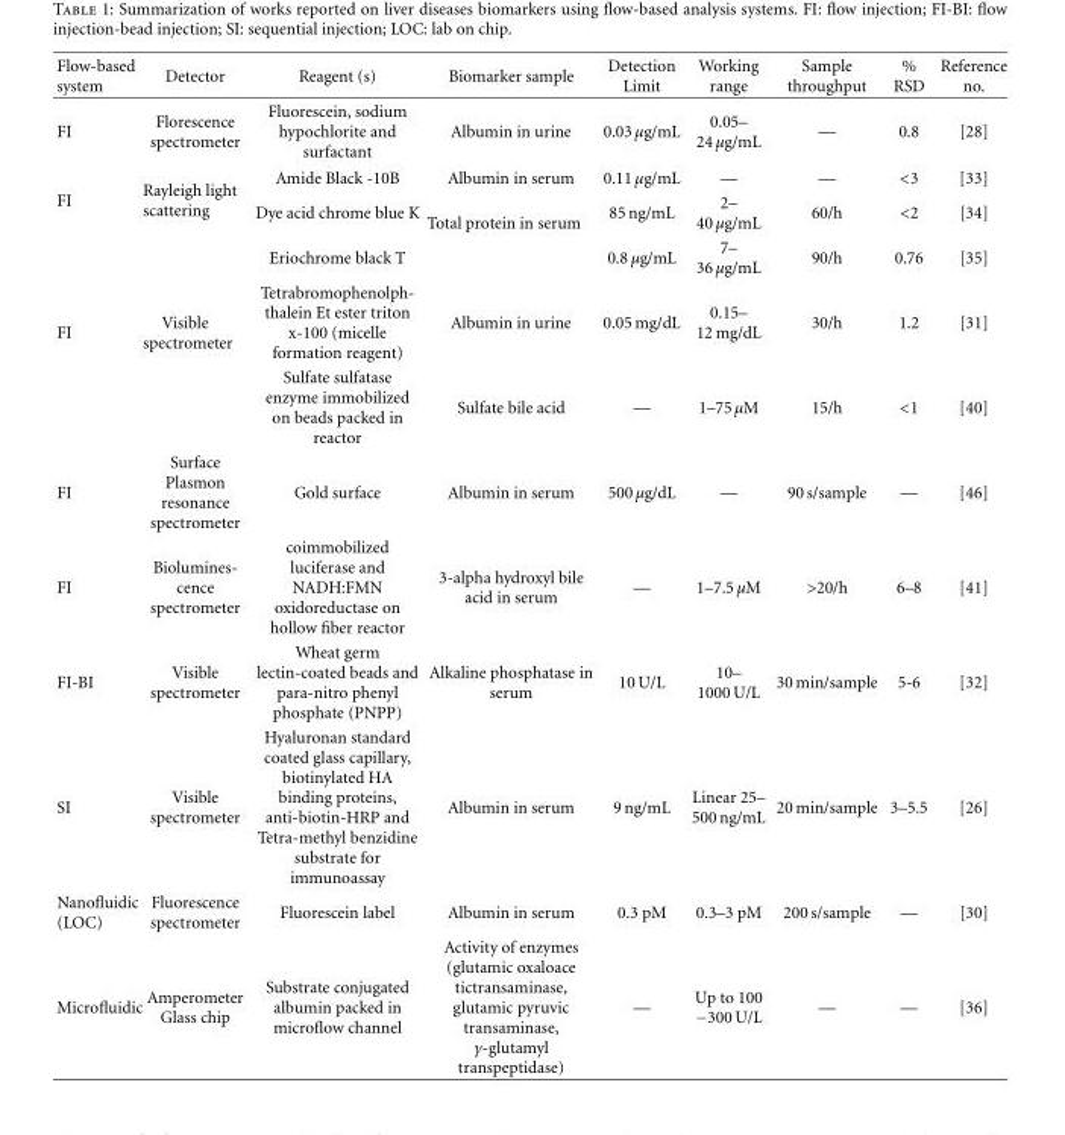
<table><thead><tr><td>Flow-based system</td><td>Detector</td><td>Reagent (s)</td><td>Biomarker sample</td><td>Detection Limit</td><td>Working range</td><td>Sample throughput</td><td>% RSD</td><td>Reference no.</td></tr></thead><tbody><tr><td>FI</td><td>Florescence spectrometer</td><td>Fluorescein, sodium hypochlorite and surfactant</td><td>Albumin in urine</td><td>0.03 μg/mL</td><td>0.05– 24 μg/mL</td><td>—</td><td>0.8</td><td>[28]</td></tr><tr><td rowspan="3">FI</td><td rowspan="3">Rayleigh light scattering</td><td>Amide Black -10B</td><td>Albumin in serum</td><td>0.11 μg/mL</td><td>—</td><td>—</td><td>&lt;3</td><td>[33]</td></tr><tr><td>Dye acid chrome blue K</td><td rowspan="2">Total protein in serum</td><td>85 ng/mL</td><td>2– 40 μg/mL</td><td>60/h</td><td>&lt;2</td><td>[34]</td></tr><tr><td>Eriochrome black T</td><td>0.8 μg/mL</td><td>7– 36 μg/mL</td><td>90/h</td><td>0.76</td><td>[35]</td></tr><tr><td rowspan="2">FI</td><td rowspan="2">Visible spectrometer</td><td>Tetrabromophenolph- thalein Et ester triton x-100 (micelle formation reagent)</td><td>Albumin in urine</td><td>0.05 mg/dL</td><td>0.15– 12 mg/dL</td><td>30/h</td><td>1.2</td><td>[31]</td></tr><tr><td>Sulfate sulfatase enzyme immobilized on beads packed in reactor</td><td>Sulfate bile acid</td><td>—</td><td>1–75 μM</td><td>15/h</td><td>&lt;1</td><td>[40]</td></tr><tr><td>FI</td><td>Surface Plasmon resonance spectrometer</td><td>Gold surface</td><td>Albumin in serum</td><td>500 μg/dL</td><td>—</td><td>90 s/sample</td><td>—</td><td>[46]</td></tr><tr><td>FI</td><td>Biolumines- cence spectrometer</td><td>coimmobilized luciferase and NADH:FMN oxidoreductase on hollow fiber reactor</td><td>3-alpha hydroxyl bile acid in serum</td><td>—</td><td>1–7.5 μM</td><td>&gt;20/h</td><td>6–8</td><td>[41]</td></tr><tr><td>FI-BI</td><td>Visible spectrometer</td><td>Wheat germ lectin-coated beads and para-nitro phenyl phosphate (PNPP)</td><td>Alkaline phosphatase in serum</td><td>10 U/L</td><td>10– 1000 U/L</td><td>30 min/sample</td><td>5-6</td><td>[32]</td></tr><tr><td>SI</td><td>Visible spectrometer</td><td>Hyaluronan standard coated glass capillary, biotinylated HA binding proteins, anti-biotin-HRP and Tetra-methyl benzidine substrate for immunoassay</td><td>Albumin in serum</td><td>9 ng/mL</td><td>Linear 25– 500 ng/mL</td><td>20 min/sample</td><td>3–5.5</td><td>[26]</td></tr><tr><td>Nanofluidic (LOC)</td><td>Fluorescence spectrometer</td><td>Fluorescein label</td><td>Albumin in serum</td><td>0.3 pM</td><td>0.3–3 pM</td><td>200 s/sample</td><td>—</td><td>[30]</td></tr><tr><td>Microfluidic</td><td>Amperometer Glass chip</td><td>Substrate conjugated albumin packed in microflow channel</td><td>Activity of enzymes (glutamic oxaloace tictransaminase, glutamic pyruvic transaminase, γ-glutamyl transpeptidase)</td><td>—</td><td>Up to 100 −300 U/L</td><td>—</td><td>—</td><td>[36]</td></tr></tbody></table>